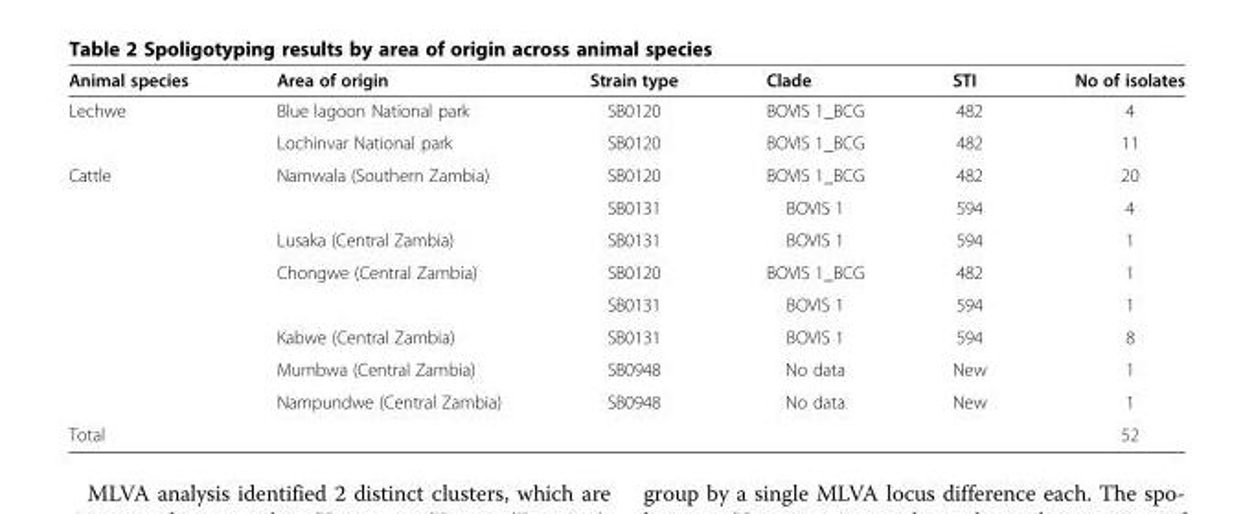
<table><thead><tr><td>Animal species</td><td>Area of origin</td><td>Strain type</td><td>Clade</td><td>STI</td><td>No of isolates</td></tr></thead><tbody><tr><td rowspan="2">Lechwe</td><td>Blue lagoon National park</td><td>SB0120</td><td>BOVIS 1_BCG</td><td>482</td><td>4</td></tr><tr><td>Lochinvar National park</td><td>SB0120</td><td>BOVIS 1_BCG</td><td>482</td><td>11</td></tr><tr><td rowspan="8">Cattle</td><td>Namwala (Southern Zambia)</td><td>SB0120</td><td>BOVIS 1_BCG</td><td>482</td><td>20</td></tr><tr><td></td><td>SB0131</td><td>BOVIS 1</td><td>594</td><td>4</td></tr><tr><td>Lusaka (Central Zambia)</td><td>SB0131</td><td>BOVIS 1</td><td>594</td><td>1</td></tr><tr><td>Chongwe (Central Zambia)</td><td>SB0120</td><td>BOVIS 1_BCG</td><td>482</td><td>1</td></tr><tr><td></td><td>SB0131</td><td>BOVIS 1</td><td>594</td><td>1</td></tr><tr><td>Kabwe (Central Zambia)</td><td>SB0131</td><td>BOVIS 1</td><td>594</td><td>8</td></tr><tr><td>Mumbwa (Central Zambia)</td><td>SB0948</td><td>No data</td><td>New</td><td>1</td></tr><tr><td>Nampundwe (Central Zambia)</td><td>SB0948</td><td>No data</td><td>New</td><td>1</td></tr><tr><td>Total</td><td></td><td></td><td></td><td></td><td>52</td></tr></tbody></table>